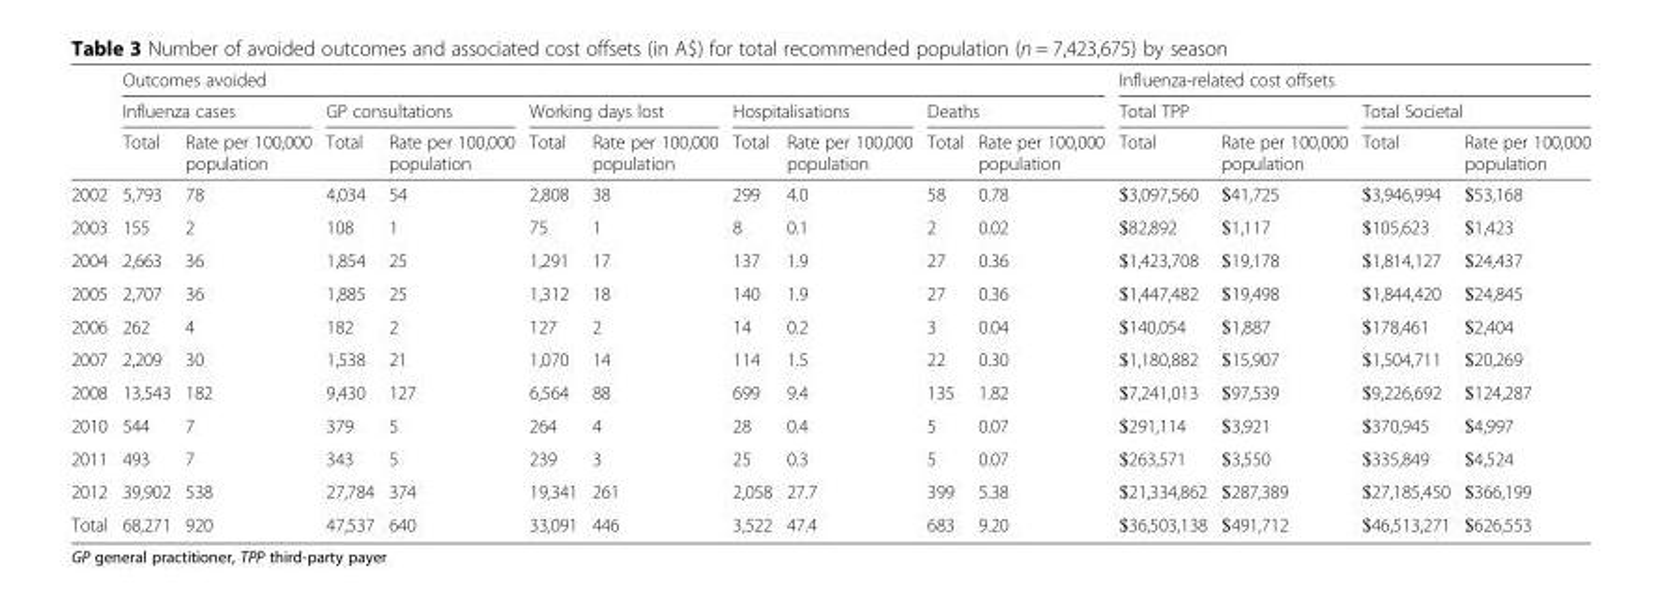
<table><thead><tr><td rowspan="3"></td><td colspan="10">Outcomes avoided</td><td colspan="4">Influenza-related cost offsets</td></tr><tr><td colspan="2">Influenza cases</td><td colspan="2">GP consultations</td><td colspan="2">Working days lost</td><td colspan="2">Hospitalisations</td><td colspan="2">Deaths</td><td colspan="2">Total TPP</td><td colspan="2">Total Societal</td></tr><tr><td>Total</td><td>Rate per 100,000 population</td><td>Total</td><td>Rate per 100,000 population</td><td>Total</td><td>Rate per 100,000 population</td><td>Total</td><td>Rate per 100,000 population</td><td>Total</td><td>Rate per 100,000 population</td><td>Total</td><td>Rate per 100,000 population</td><td>Total</td><td>Rate per 100,000 population</td></tr></thead><tbody><tr><td>2002</td><td>5,793</td><td>78</td><td>4,034</td><td>54</td><td>2,808</td><td>38</td><td>299</td><td>4.0</td><td>58</td><td>0.78</td><td>$3,097,560</td><td>$41,725</td><td>$3,946,994</td><td>$53,168</td></tr><tr><td>2003</td><td>155</td><td>2</td><td>108</td><td>1</td><td>75</td><td>1</td><td>8</td><td>0.1</td><td>2</td><td>0.02</td><td>$82,892</td><td>$1,117</td><td>$105,623</td><td>$1,423</td></tr><tr><td>2004</td><td>2,663</td><td>36</td><td>1,854</td><td>25</td><td>1,291</td><td>17</td><td>137</td><td>1.9</td><td>27</td><td>0.36</td><td>$1,423,708</td><td>$19,178</td><td>$1,814,127</td><td>$24,437</td></tr><tr><td>2005</td><td>2,707</td><td>36</td><td>1,885</td><td>25</td><td>1,312</td><td>18</td><td>140</td><td>1.9</td><td>27</td><td>0.36</td><td>$1,447,482</td><td>$19,498</td><td>$1,844,420</td><td>$24,845</td></tr><tr><td>2006</td><td>262</td><td>4</td><td>182</td><td>2</td><td>127</td><td>2</td><td>14</td><td>0.2</td><td>3</td><td>0.04</td><td>$140,054</td><td>$1,887</td><td>$178,461</td><td>$2,404</td></tr><tr><td>2007</td><td>2,209</td><td>30</td><td>1,538</td><td>21</td><td>1,070</td><td>14</td><td>114</td><td>1.5</td><td>22</td><td>0.30</td><td>$1,180,882</td><td>$15,907</td><td>$1,504,711</td><td>$20,269</td></tr><tr><td>2008</td><td>13,543</td><td>182</td><td>9,430</td><td>127</td><td>6,564</td><td>88</td><td>699</td><td>9.4</td><td>135</td><td>1.82</td><td>$7,241,013</td><td>$97,539</td><td>$9,226,692</td><td>$124,287</td></tr><tr><td>2010</td><td>544</td><td>7</td><td>379</td><td>5</td><td>264</td><td>4</td><td>28</td><td>0.4</td><td>5</td><td>0.07</td><td>$291,114</td><td>$3,921</td><td>$370,945</td><td>$4,997</td></tr><tr><td>2011</td><td>493</td><td>7</td><td>343</td><td>5</td><td>239</td><td>3</td><td>25</td><td>0.3</td><td>5</td><td>0.07</td><td>$263,571</td><td>$3,550</td><td>$335,849</td><td>$4,524</td></tr><tr><td>2012</td><td>39,902</td><td>538</td><td>27,784</td><td>374</td><td>19,341</td><td>261</td><td>2,058</td><td>27.7</td><td>399</td><td>5.38</td><td>$21,334,862</td><td>$287,389</td><td>$27,185,450</td><td>$366,199</td></tr><tr><td>Total</td><td>68,271</td><td>920</td><td>47,537</td><td>640</td><td>33,091</td><td>446</td><td>3,522</td><td>47.4</td><td>683</td><td>9.20</td><td>$36,503,138</td><td>$491,712</td><td>$46,513,271</td><td>$626,553</td></tr></tbody></table>